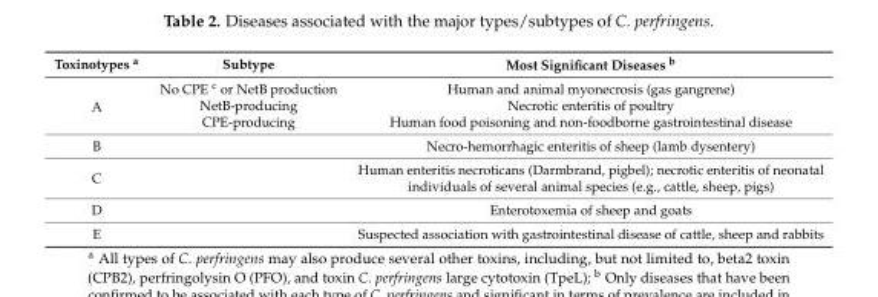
<table><thead><tr><td>Toxinotypes <sup>a</sup></td><td>Subtype</td><td>Most Significant Diseases <sup>b</sup></td></tr></thead><tbody><tr><td rowspan="3">A</td><td>No CPE <sup>c</sup> or NetB production</td><td>Human and animal myonecrosis (gas gangrene)</td></tr><tr><td>NetB-producing</td><td>Necrotic enteritis of poultry</td></tr><tr><td>CPE-producing</td><td>Human food poisoning and non-foodborne gastrointestinal disease</td></tr><tr><td>B</td><td></td><td>Necro-hemorrhagic enteritis of sheep (lamb dysentery)</td></tr><tr><td>C</td><td></td><td>Human enteritis necroticans (Darmbrand, pigbel); necrotic enteritis of neonatal individuals of several animal species (e.g., cattle, sheep, pigs)</td></tr><tr><td>D</td><td></td><td>Enterotoxemia of sheep and goats</td></tr><tr><td>E</td><td></td><td>Suspected association with gastrointestinal disease of cattle, sheep and rabbits</td></tr></tbody></table>